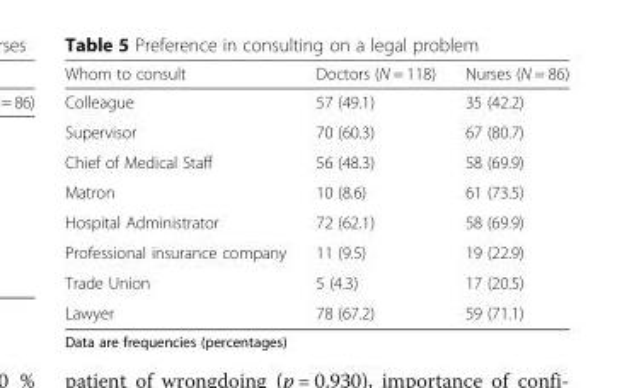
<table><thead><tr><td>Whom to consult</td><td>Doctors (N = 118)</td><td>Nurses (N = 86)</td></tr></thead><tbody><tr><td>Colleague</td><td>57 (49.1)</td><td>35 (42.2)</td></tr><tr><td>Supervisor</td><td>70 (60.3)</td><td>67 (80.7)</td></tr><tr><td>Chief of Medical Staff</td><td>56 (48.3)</td><td>58 (69.9)</td></tr><tr><td>Matron</td><td>10 (8.6)</td><td>61 (73.5)</td></tr><tr><td>Hospital Administrator</td><td>72 (62.1)</td><td>58 (69.9)</td></tr><tr><td>Professional insurance company</td><td>11 (9.5)</td><td>19 (22.9)</td></tr><tr><td>Trade Union</td><td>5 (4.3)</td><td>17 (20.5)</td></tr><tr><td>Lawyer</td><td>78 (67.2)</td><td>59 (71.1)</td></tr></tbody></table>